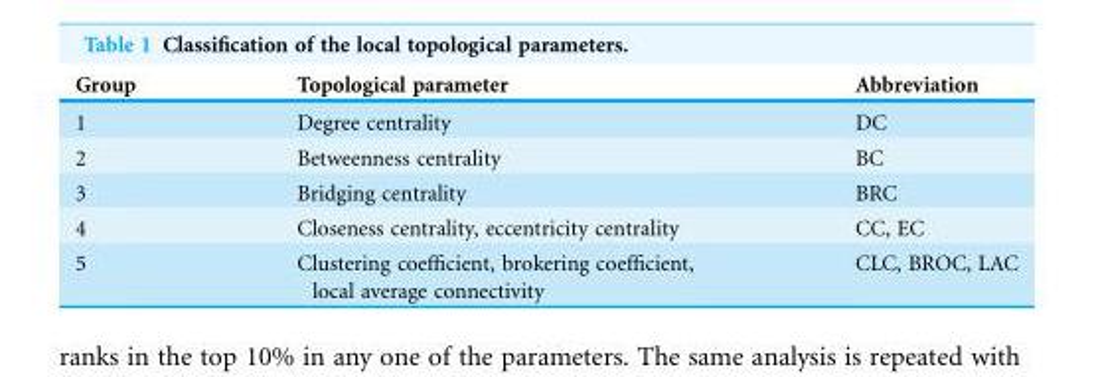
<table><thead><tr><td>Group</td><td>Topological parameter</td><td>Abbreviation</td></tr></thead><tbody><tr><td>1</td><td>Degree centrality</td><td>DC</td></tr><tr><td>2</td><td>Betweenness centrality</td><td>BC</td></tr><tr><td>3</td><td>Bridging centrality</td><td>BRC</td></tr><tr><td>4</td><td>Closeness centrality, eccentricity centrality</td><td>CC, EC</td></tr><tr><td>5</td><td>Clustering coefficient, brokering coefficient, local average connectivity</td><td>CLC, BROC, LAC</td></tr></tbody></table>